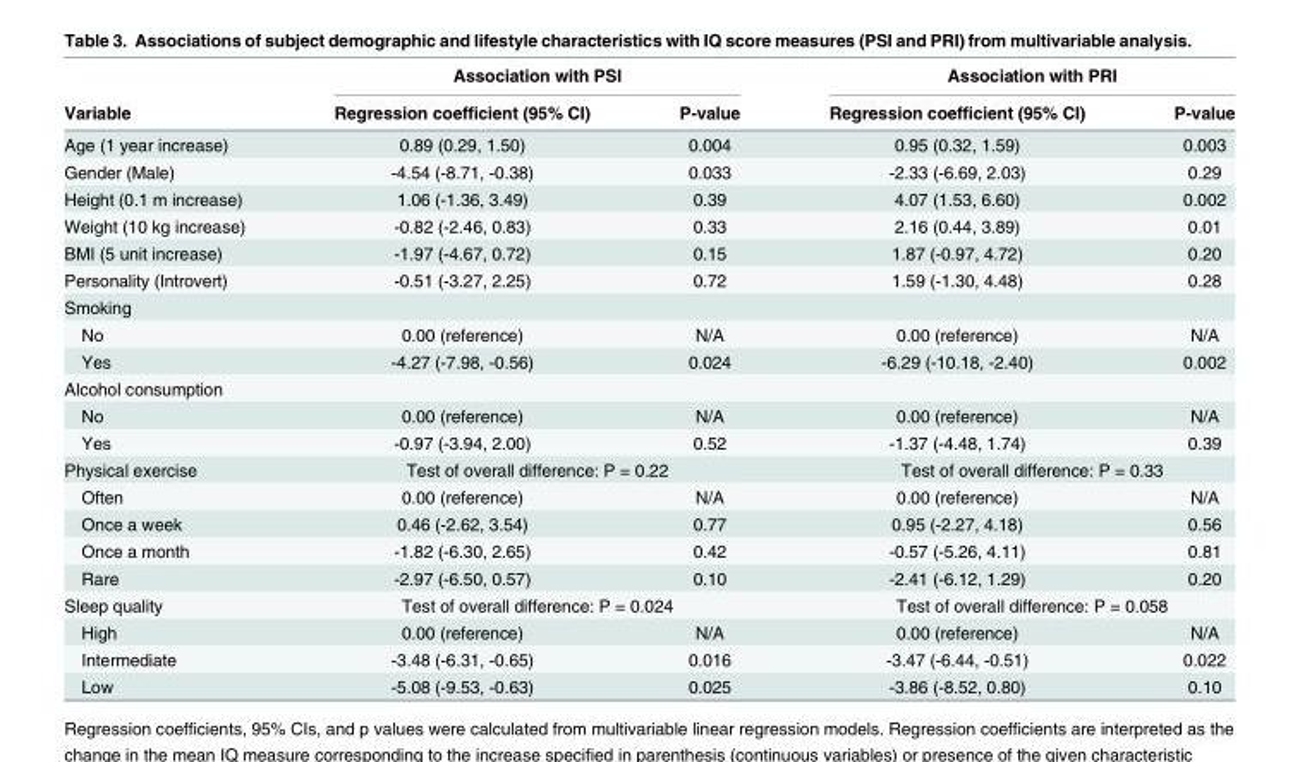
<table><thead><tr><td rowspan="2">Variable</td><td colspan="2">Association with PSI</td><td colspan="2">Association with PRI</td></tr><tr><td>Regression coefficient (95% CI)</td><td>P-value</td><td>Regression coefficient (95% CI)</td><td>P-value</td></tr></thead><tbody><tr><td>Age (1 year increase)</td><td>0.89 (0.29, 1.50)</td><td>0.004</td><td>0.95 (0.32, 1.59)</td><td>0.003</td></tr><tr><td>Gender (Male)</td><td>-4.54 (-8.71, -0.38)</td><td>0.033</td><td>-2.33 (-6.69, 2.03)</td><td>0.29</td></tr><tr><td>Height (0.1 m increase)</td><td>1.06 (-1.36, 3.49)</td><td>0.39</td><td>4.07 (1.53, 6.60)</td><td>0.002</td></tr><tr><td>Weight (10 kg increase)</td><td>-0.82 (-2.46, 0.83)</td><td>0.33</td><td>2.16 (0.44, 3.89)</td><td>0.01</td></tr><tr><td>BMI (5 unit increase)</td><td>-1.97 (-4.67, 0.72)</td><td>0.15</td><td>1.87 (-0.97, 4.72)</td><td>0.20</td></tr><tr><td>Personality (Introvert)</td><td>-0.51 (-3.27, 2.25)</td><td>0.72</td><td>1.59 (-1.30, 4.48)</td><td>0.28</td></tr><tr><td colspan="5">Smoking</td></tr><tr><td>No</td><td>0.00 (reference)</td><td>N/A</td><td>0.00 (reference)</td><td>N/A</td></tr><tr><td>Yes</td><td>-4.27 (-7.98, -0.56)</td><td>0.024</td><td>-6.29 (-10.18, -2.40)</td><td>0.002</td></tr><tr><td colspan="5">Alcohol consumption</td></tr><tr><td>No</td><td>0.00 (reference)</td><td>N/A</td><td>0.00 (reference)</td><td>N/A</td></tr><tr><td>Yes</td><td>-0.97 (-3.94, 2.00)</td><td>0.52</td><td>-1.37 (-4.48, 1.74)</td><td>0.39</td></tr><tr><td>Physical exercise</td><td colspan="2">Test of overall difference: P = 0.22</td><td colspan="2">Test of overall difference: P = 0.33</td></tr><tr><td>Often</td><td>0.00 (reference)</td><td>N/A</td><td>0.00 (reference)</td><td>N/A</td></tr><tr><td>Once a week</td><td>0.46 (-2.62, 3.54)</td><td>0.77</td><td>0.95 (-2.27, 4.18)</td><td>0.56</td></tr><tr><td>Once a month</td><td>-1.82 (-6.30, 2.65)</td><td>0.42</td><td>-0.57 (-5.26, 4.11)</td><td>0.81</td></tr><tr><td>Rare</td><td>-2.97 (-6.50, 0.57)</td><td>0.10</td><td>-2.41 (-6.12, 1.29)</td><td>0.20</td></tr><tr><td>Sleep quality</td><td colspan="2">Test of overall difference: P = 0.024</td><td colspan="2">Test of overall difference: P = 0.058</td></tr><tr><td>High</td><td>0.00 (reference)</td><td>N/A</td><td>0.00 (reference)</td><td>N/A</td></tr><tr><td>Intermediate</td><td>-3.48 (-6.31, -0.65)</td><td>0.016</td><td>-3.47 (-6.44, -0.51)</td><td>0.022</td></tr><tr><td>Low</td><td>-5.08 (-9.53, -0.63)</td><td>0.025</td><td>-3.86 (-8.52, 0.80)</td><td>0.10</td></tr></tbody></table>